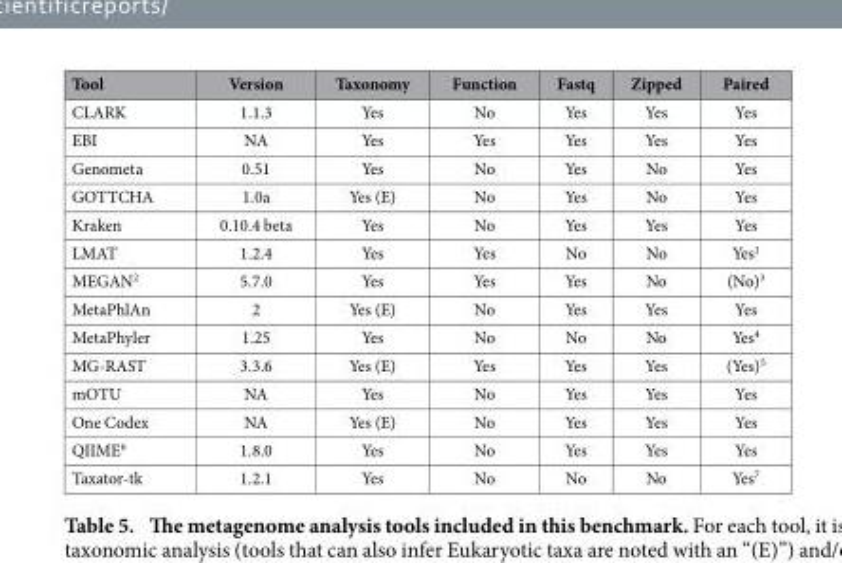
<table><thead><tr><td>Tool</td><td>Version</td><td>Taxonomy</td><td>Function</td><td>Fastq</td><td>Zipped</td><td>Paired</td></tr></thead><tbody><tr><td>CLARK</td><td>1.1.3</td><td>Yes</td><td>No</td><td>Yes</td><td>Yes</td><td>Yes</td></tr><tr><td>EBI</td><td>NA</td><td>Yes</td><td>Yes</td><td>Yes</td><td>Yes</td><td>Yes</td></tr><tr><td>Genometa</td><td>0.51</td><td>Yes</td><td>No</td><td>Yes</td><td>No</td><td>Yes</td></tr><tr><td>GOTTCHA</td><td>1.0a</td><td>Yes (E)</td><td>No</td><td>Yes</td><td>No</td><td>Yes</td></tr><tr><td>Kraken</td><td>0.10.4 beta</td><td>Yes</td><td>No</td><td>Yes</td><td>Yes</td><td>Yes</td></tr><tr><td>LMAT</td><td>1.2.4</td><td>Yes</td><td>Yes</td><td>No</td><td>No</td><td>Yes<sup>1</sup></td></tr><tr><td>MEGAN<sup>2</sup></td><td>5.7.0</td><td>Yes</td><td>Yes</td><td>Yes</td><td>No</td><td>(No)<sup>3</sup></td></tr><tr><td>MetaPhlAn</td><td>2</td><td>Yes (E)</td><td>No</td><td>Yes</td><td>Yes</td><td>Yes</td></tr><tr><td>MetaPhyler</td><td>1.25</td><td>Yes</td><td>No</td><td>No</td><td>No</td><td>Yes<sup>4</sup></td></tr><tr><td>MG-RAST</td><td>3.3.6</td><td>Yes (E)</td><td>Yes</td><td>Yes</td><td>Yes</td><td>(Yes)<sup>5</sup></td></tr><tr><td>mOTU</td><td>NA</td><td>Yes</td><td>No</td><td>Yes</td><td>Yes</td><td>Yes</td></tr><tr><td>One Codex</td><td>NA</td><td>Yes (E)</td><td>No</td><td>Yes</td><td>Yes</td><td>Yes</td></tr><tr><td>QIIME<sup>6</sup></td><td>1.8.0</td><td>Yes</td><td>No</td><td>Yes</td><td>Yes</td><td>Yes</td></tr><tr><td>Taxator-tk</td><td>1.2.1</td><td>Yes</td><td>No</td><td>No</td><td>No</td><td>Yes<sup>7</sup></td></tr></tbody></table>